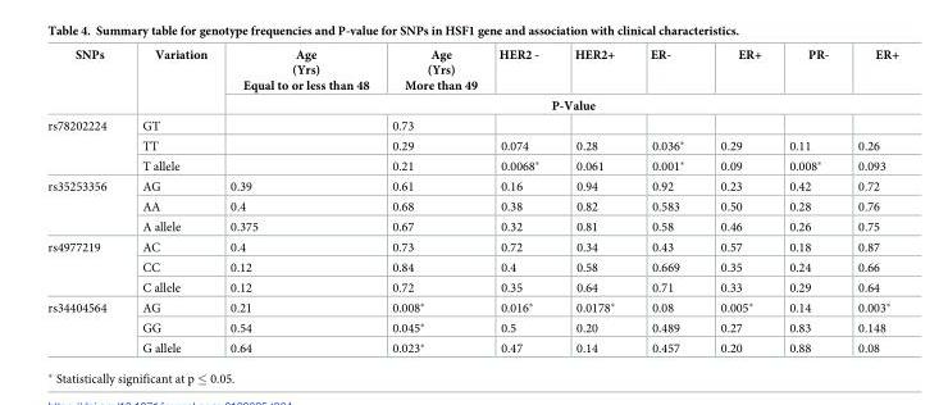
<table><thead><tr><td rowspan="2">SNPs</td><td rowspan="2">Variation</td><td>Age (Yrs) Equal to or less than 48</td><td>Age (Yrs) More than 49</td><td>HER2 -</td><td>HER2+</td><td>ER-</td><td>ER+</td><td>PR-</td><td>ER+</td></tr><tr><td colspan="8">P-Value</td></tr></thead><tbody><tr><td rowspan="3">rs78202224</td><td>GT</td><td></td><td>0.73</td><td></td><td></td><td></td><td></td><td></td><td></td></tr><tr><td>TT</td><td></td><td>0.29</td><td>0.074</td><td>0.28</td><td>0.036*</td><td>0.29</td><td>0.11</td><td>0.26</td></tr><tr><td>T allele</td><td></td><td>0.21</td><td>0.0068*</td><td>0.061</td><td>0.001*</td><td>0.09</td><td>0.008*</td><td>0.093</td></tr><tr><td rowspan="3">rs35253356</td><td>AG</td><td>0.39</td><td>0.61</td><td>0.16</td><td>0.94</td><td>0.92</td><td>0.23</td><td>0.42</td><td>0.72</td></tr><tr><td>AA</td><td>0.4</td><td>0.68</td><td>0.38</td><td>0.82</td><td>0.583</td><td>0.50</td><td>0.28</td><td>0.76</td></tr><tr><td>A allele</td><td>0.375</td><td>0.67</td><td>0.32</td><td>0.81</td><td>0.58</td><td>0.46</td><td>0.26</td><td>0.75</td></tr><tr><td rowspan="3">rs4977219</td><td>AC</td><td>0.4</td><td>0.73</td><td>0.72</td><td>0.34</td><td>0.43</td><td>0.57</td><td>0.18</td><td>0.87</td></tr><tr><td>CC</td><td>0.12</td><td>0.84</td><td>0.4</td><td>0.58</td><td>0.669</td><td>0.35</td><td>0.24</td><td>0.66</td></tr><tr><td>C allele</td><td>0.12</td><td>0.72</td><td>0.35</td><td>0.64</td><td>0.71</td><td>0.33</td><td>0.29</td><td>0.64</td></tr><tr><td rowspan="3">rs34404564</td><td>AG</td><td>0.21</td><td>0.008*</td><td>0.016*</td><td>0.0178*</td><td>0.08</td><td>0.005*</td><td>0.14</td><td>0.003*</td></tr><tr><td>GG</td><td>0.54</td><td>0.045*</td><td>0.5</td><td>0.20</td><td>0.489</td><td>0.27</td><td>0.83</td><td>0.148</td></tr><tr><td>G allele</td><td>0.64</td><td>0.023*</td><td>0.47</td><td>0.14</td><td>0.457</td><td>0.20</td><td>0.88</td><td>0.08</td></tr></tbody></table>